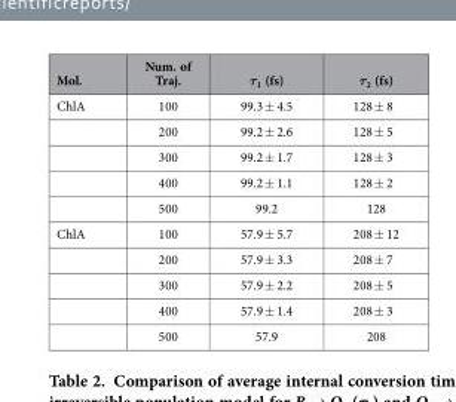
<table><thead><tr><td>Mol.</td><td>Num. of Traj.</td><td>τ<sub>1</sub> (fs)</td><td>τ<sub>2</sub> (fs)</td></tr></thead><tbody><tr><td rowspan="5">ChlA</td><td>100</td><td>99.3 ± 4.5</td><td>128 ± 8</td></tr><tr><td>200</td><td>99.2 ± 2.6</td><td>128 ± 5</td></tr><tr><td>300</td><td>99.2 ± 1.7</td><td>128 ± 3</td></tr><tr><td>400</td><td>99.2 ± 1.1</td><td>128 ± 2</td></tr><tr><td>500</td><td>99.2</td><td>128</td></tr><tr><td rowspan="5">ChlA</td><td>100</td><td>57.9 ± 5.7</td><td>208 ± 12</td></tr><tr><td>200</td><td>57.9 ± 3.3</td><td>208 ± 7</td></tr><tr><td>300</td><td>57.9 ± 2.2</td><td>208 ± 5</td></tr><tr><td>400</td><td>57.9 ± 1.4</td><td>208 ± 3</td></tr><tr><td>500</td><td>57.9</td><td>208</td></tr></tbody></table>